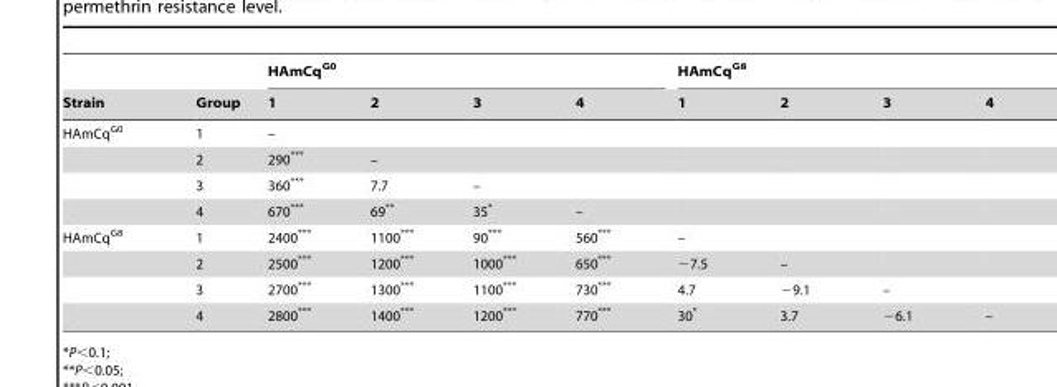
<table><thead><tr><td rowspan="2">Strain</td><td rowspan="2">Group</td><td colspan="4">HAmCq<sup>G0</sup></td><td colspan="4">HAmCq<sup>G8</sup></td></tr><tr><td>1</td><td>2</td><td>3</td><td>4</td><td>1</td><td>2</td><td>3</td><td>4</td></tr></thead><tbody><tr><td rowspan="4">HAmCq<sup>G0</sup></td><td>1</td><td>–</td><td></td><td></td><td></td><td></td><td></td><td></td><td></td></tr><tr><td>2</td><td>290***</td><td>–</td><td></td><td></td><td></td><td></td><td></td><td></td></tr><tr><td>3</td><td>360***</td><td>7.7</td><td>–</td><td></td><td></td><td></td><td></td><td></td></tr><tr><td>4</td><td>670***</td><td>69**</td><td>35*</td><td>–</td><td></td><td></td><td></td><td></td></tr><tr><td rowspan="4">HAmCq<sup>G8</sup></td><td>1</td><td>2400***</td><td>1100***</td><td>90***</td><td>560***</td><td>–</td><td></td><td></td><td></td></tr><tr><td>2</td><td>2500***</td><td>1200***</td><td>1000***</td><td>650***</td><td>−7.5</td><td>–</td><td></td><td></td></tr><tr><td>3</td><td>2700***</td><td>1300***</td><td>1100***</td><td>730***</td><td>4.7</td><td>−9.1</td><td>–</td><td></td></tr><tr><td>4</td><td>2800***</td><td>1400***</td><td>1200***</td><td>770***</td><td>30*</td><td>3.7</td><td>−6.1</td><td>–</td></tr></tbody></table>